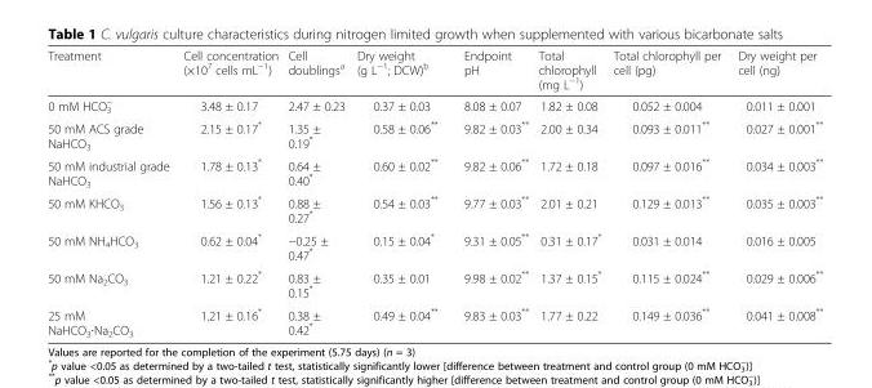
<table><thead><tr><td>Treatment</td><td>Cell concentration (×10<sup>7</sup> cells mL<sup>−1</sup>)</td><td>Cell doublings<sup>a</sup></td><td>Dry weight (g L<sup>−1</sup>; DCW)<sup>b</sup></td><td>Endpoint pH</td><td>Total chlorophyll (mg L<sup>−1</sup>)</td><td>Total chlorophyll per cell (pg)</td><td>Dry weight per cell (ng)</td></tr></thead><tbody><tr><td>0 mM HCO<sub>3</sub> <sup>−</sup></td><td>3.48 ± 0.17</td><td>2.47 ± 0.23</td><td>0.37 ± 0.03</td><td>8.08 ± 0.07</td><td>1.82 ± 0.08</td><td>0.052 ± 0.004</td><td>0.011 ± 0.001</td></tr><tr><td>50 mM ACS grade NaHCO<sub>3</sub></td><td>2.15 ± 0.17*</td><td>1.35 ± 0.19*</td><td>0.58 ± 0.06**</td><td>9.82 ± 0.03**</td><td>2.00 ± 0.34</td><td>0.093 ± 0.011**</td><td>0.027 ± 0.001**</td></tr><tr><td>50 mM industrial grade NaHCO<sub>3</sub></td><td>1.78 ± 0.13*</td><td>0.64 ± 0.40*</td><td>0.60 ± 0.02**</td><td>9.82 ± 0.06**</td><td>1.72 ± 0.18</td><td>0.097 ± 0.016**</td><td>0.034 ± 0.003**</td></tr><tr><td>50 mM KHCO<sub>3</sub></td><td>1.56 ± 0.13*</td><td>0.88 ± 0.27*</td><td>0.54 ± 0.03**</td><td>9.77 ± 0.03**</td><td>2.01 ± 0.21</td><td>0.129 ± 0.013**</td><td>0.035 ± 0.003**</td></tr><tr><td>50 mM NH<sub>4</sub>HCO<sub>3</sub></td><td>0.62 ± 0.04*</td><td>−0.25 ± 0.47*</td><td>0.15 ± 0.04*</td><td>9.31 ± 0.05**</td><td>0.31 ± 0.17*</td><td>0.031 ± 0.014</td><td>0.016 ± 0.005</td></tr><tr><td>50 mM Na<sub>2</sub>CO<sub>3</sub></td><td>1.21 ± 0.22*</td><td>0.83 ± 0.15*</td><td>0.35 ± 0.01</td><td>9.98 ± 0.02**</td><td>1.37 ± 0.15*</td><td>0.115 ± 0.024**</td><td>0.029 ± 0.006**</td></tr><tr><td>25 mM NaHCO<sub>3</sub>∙Na<sub>2</sub>CO<sub>3</sub></td><td>1.21 ± 0.16*</td><td>0.38 ± 0.42*</td><td>0.49 ± 0.04**</td><td>9.83 ± 0.03**</td><td>1.77 ± 0.22</td><td>0.149 ± 0.036**</td><td>0.041 ± 0.008**</td></tr></tbody></table>